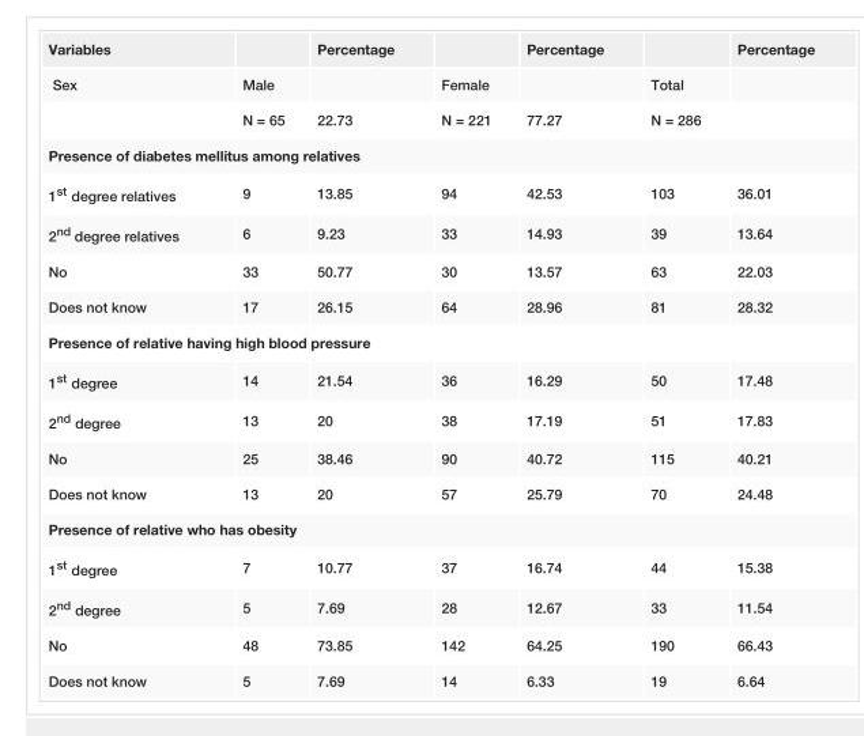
<table><tbody><tr><td>Variables</td><td></td><td>Percentage</td><td></td><td>Percentage</td><td></td><td>Percentage</td></tr><tr><td rowspan="2">Sex</td><td>Male</td><td></td><td>Female</td><td></td><td>Total</td><td></td></tr><tr><td>N = 65</td><td>22.73</td><td>N = 221</td><td>77.27</td><td>N = 286</td><td></td></tr><tr><td colspan="7">Presence of diabetes mellitus among relatives</td></tr><tr><td>1<sup>st</sup> degree relatives</td><td>9</td><td>13.85</td><td>94</td><td>42.53</td><td>103</td><td>36.01</td></tr><tr><td>2<sup>nd</sup> degree relatives</td><td>6</td><td>9.23</td><td>33</td><td>14.93</td><td>39</td><td>13.64</td></tr><tr><td>No</td><td>33</td><td>50.77</td><td>30</td><td>13.57</td><td>63</td><td>22.03</td></tr><tr><td>Does not know</td><td>17</td><td>26.15</td><td>64</td><td>28.96</td><td>81</td><td>28.32</td></tr><tr><td colspan="7">Presence of relative having high blood pressure</td></tr><tr><td>1<sup>st</sup> degree</td><td>14</td><td>21.54</td><td>36</td><td>16.29</td><td>50</td><td>17.48</td></tr><tr><td>2<sup>nd</sup> degree</td><td>13</td><td>20</td><td>38</td><td>17.19</td><td>51</td><td>17.83</td></tr><tr><td>No</td><td>25</td><td>38.46</td><td>90</td><td>40.72</td><td>115</td><td>40.21</td></tr><tr><td>Does not know</td><td>13</td><td>20</td><td>57</td><td>25.79</td><td>70</td><td>24.48</td></tr><tr><td colspan="7">Presence of relative who has obesity</td></tr><tr><td>1<sup>st</sup> degree</td><td>7</td><td>10.77</td><td>37</td><td>16.74</td><td>44</td><td>15.38</td></tr><tr><td>2<sup>nd</sup> degree</td><td>5</td><td>7.69</td><td>28</td><td>12.67</td><td>33</td><td>11.54</td></tr><tr><td>No</td><td>48</td><td>73.85</td><td>142</td><td>64.25</td><td>190</td><td>66.43</td></tr><tr><td>Does not know</td><td>5</td><td>7.69</td><td>14</td><td>6.33</td><td>19</td><td>6.64</td></tr></tbody></table>